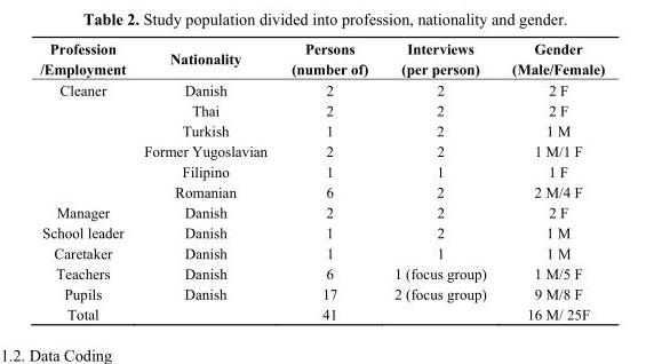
<table><thead><tr><td>Profession /Employment</td><td>Nationality</td><td>Persons (number of)</td><td>Interviews (per person)</td><td>Gender (Male/Female)</td></tr></thead><tbody><tr><td rowspan="6">Cleaner</td><td>Danish</td><td>2</td><td>2</td><td>2 F</td></tr><tr><td>Thai</td><td>2</td><td>2</td><td>2 F</td></tr><tr><td>Turkish</td><td>1</td><td>2</td><td>1 M</td></tr><tr><td>Former Yugoslavian</td><td>2</td><td>2</td><td>1 M/1 F</td></tr><tr><td>Filipino</td><td>1</td><td>1</td><td>1 F</td></tr><tr><td>Romanian</td><td>6</td><td>2</td><td>2 M/4 F</td></tr><tr><td>Manager</td><td>Danish</td><td>2</td><td>2</td><td>2 F</td></tr><tr><td>School leader</td><td>Danish</td><td>1</td><td>2</td><td>1 M</td></tr><tr><td>Caretaker</td><td>Danish</td><td>1</td><td>1</td><td>1 M</td></tr><tr><td>Teachers</td><td>Danish</td><td>6</td><td>1 (focus group)</td><td>1 M/5 F</td></tr><tr><td>Pupils</td><td>Danish</td><td>17</td><td>2 (focus group)</td><td>9 M/8 F</td></tr><tr><td>Total</td><td></td><td>41</td><td></td><td>16 M/ 25F</td></tr></tbody></table>